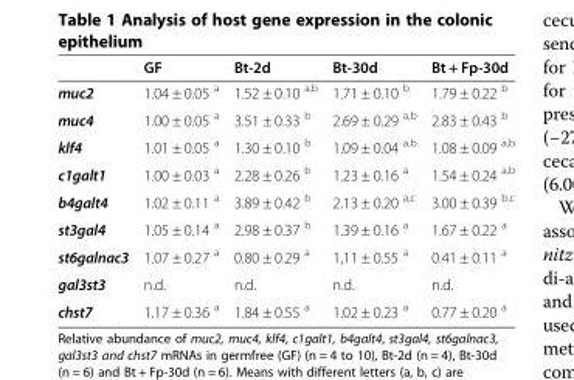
<table><thead><tr><td></td><td>GF</td><td>Bt-2d</td><td>Bt-30d</td><td>Bt + Fp-30d</td></tr></thead><tbody><tr><td>muc2</td><td>1.04 ± 0.05 <sup>a</sup></td><td>1.52 ± 0.10 <sup>a,b</sup></td><td>1.71 ± 0.10 <sup>b</sup></td><td>1.79 ± 0.22 <sup>b</sup></td></tr><tr><td>muc4</td><td>1.00 ± 0.05 <sup>a</sup></td><td>3.51 ± 0.33 <sup>b</sup></td><td>2.69 ± 0.29 <sup>a,b</sup></td><td>2.83 ± 0.43 <sup>b</sup></td></tr><tr><td>klf4</td><td>1.01 ± 0.05 <sup>a</sup></td><td>1.30 ± 0.10 <sup>b</sup></td><td>1.09 ± 0.04 <sup>a,b</sup></td><td>1.08 ± 0.09 <sup>a,b</sup></td></tr><tr><td>c1galt1</td><td>1.00 ± 0.03 <sup>a</sup></td><td>2.28 ± 0.26 <sup>b</sup></td><td>1.23 ± 0.16 <sup>a</sup></td><td>1.54 ± 0.24 <sup>a,b</sup></td></tr><tr><td>b4galt4</td><td>1.02 ± 0.11 <sup>a</sup></td><td>3.89 ± 0.42 <sup>b</sup></td><td>2.13 ± 0.20 <sup>a,c</sup></td><td>3.00 ± 0.39 <sup>b,c</sup></td></tr><tr><td>st3gal4</td><td>1.05 ± 0.14 <sup>a</sup></td><td>2.98 ± 0.37 <sup>b</sup></td><td>1.39 ± 0.16 <sup>a</sup></td><td>1.67 ± 0.22 <sup>a</sup></td></tr><tr><td>st6galnac3</td><td>1.07 ± 0.27 <sup>a</sup></td><td>0.80 ± 0.29 <sup>a</sup></td><td>1,11 ± 0.55 <sup>a</sup></td><td>0.41 ± 0.11 <sup>a</sup></td></tr><tr><td>gal3st3</td><td>n.d.</td><td>n.d.</td><td>n.d.</td><td>n.d.</td></tr><tr><td>chst7</td><td>1.17 ± 0.36 <sup>a</sup></td><td>1.84 ± 0.55 <sup>a</sup></td><td>1.02 ± 0.23 <sup>a</sup></td><td>0.77 ± 0.20 <sup>a</sup></td></tr></tbody></table>